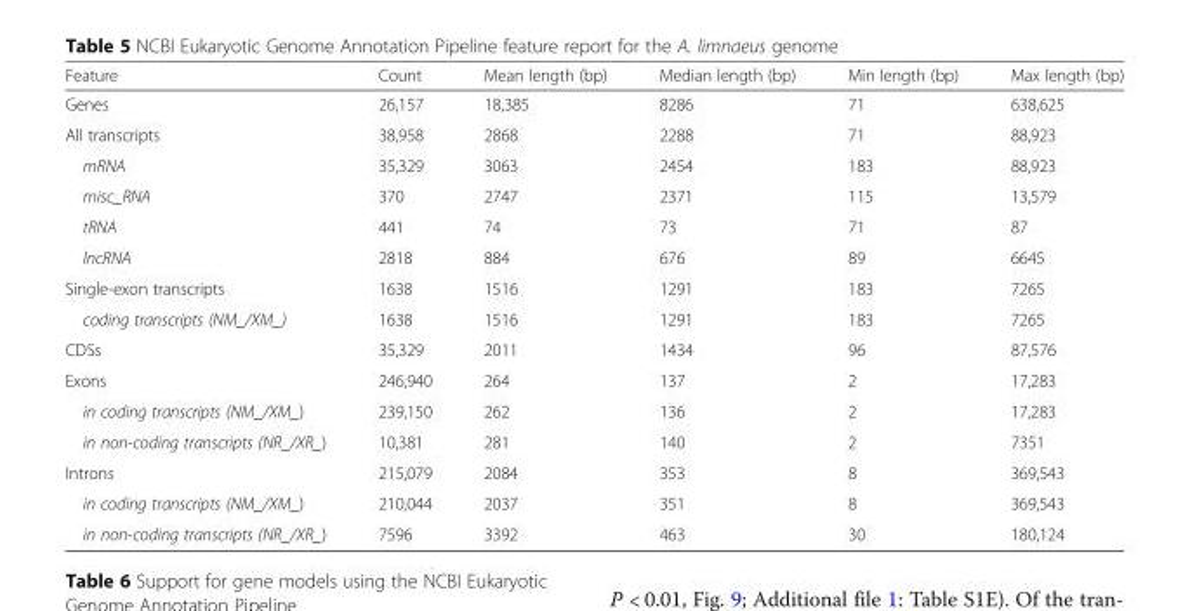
<table><thead><tr><td>Feature</td><td>Count</td><td>Mean length (bp)</td><td>Median length (bp)</td><td>Min length (bp)</td><td>Max length (bp)</td></tr></thead><tbody><tr><td>Genes</td><td>26,157</td><td>18,385</td><td>8286</td><td>71</td><td>638,625</td></tr><tr><td>All transcripts</td><td>38,958</td><td>2868</td><td>2288</td><td>71</td><td>88,923</td></tr><tr><td>mRNA</td><td>35,329</td><td>3063</td><td>2454</td><td>183</td><td>88,923</td></tr><tr><td>misc_RNA</td><td>370</td><td>2747</td><td>2371</td><td>115</td><td>13,579</td></tr><tr><td>tRNA</td><td>441</td><td>74</td><td>73</td><td>71</td><td>87</td></tr><tr><td>lncRNA</td><td>2818</td><td>884</td><td>676</td><td>89</td><td>6645</td></tr><tr><td>Single-exon transcripts</td><td>1638</td><td>1516</td><td>1291</td><td>183</td><td>7265</td></tr><tr><td>coding transcripts (NM_/XM_)</td><td>1638</td><td>1516</td><td>1291</td><td>183</td><td>7265</td></tr><tr><td>CDSs</td><td>35,329</td><td>2011</td><td>1434</td><td>96</td><td>87,576</td></tr><tr><td>Exons</td><td>246,940</td><td>264</td><td>137</td><td>2</td><td>17,283</td></tr><tr><td>in coding transcripts (NM_/XM_)</td><td>239,150</td><td>262</td><td>136</td><td>2</td><td>17,283</td></tr><tr><td>in non-coding transcripts (NR_/XR_)</td><td>10,381</td><td>281</td><td>140</td><td>2</td><td>7351</td></tr><tr><td>Introns</td><td>215,079</td><td>2084</td><td>353</td><td>8</td><td>369,543</td></tr><tr><td>in coding transcripts (NM_/XM_)</td><td>210,044</td><td>2037</td><td>351</td><td>8</td><td>369,543</td></tr><tr><td>in non-coding transcripts (NR_/XR_)</td><td>7596</td><td>3392</td><td>463</td><td>30</td><td>180,124</td></tr></tbody></table>